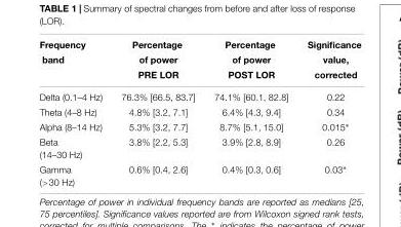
<table><thead><tr><td rowspan="3">Frequency band</td><td rowspan="3">Percentage of power PRE LOR</td><td rowspan="3">Percentage of power POST LOR</td><td rowspan="3">Significance value, corrected</td></tr><tr></tr><tr></tr></thead><tbody><tr><td>Delta (0.1–4 Hz)</td><td>76.3% [66.5, 83.7]</td><td>74.1% [60.1, 82.8]</td><td>0.22</td></tr><tr><td>Theta (4–8 Hz)</td><td>4.8% [3.2, 7.1]</td><td>6.4% [4.3, 9.4]</td><td>0.34</td></tr><tr><td>Alpha (8–14 Hz)</td><td>5.3% [3.2, 7.7]</td><td>8.7% [5.1, 15.0]</td><td>0.015∗</td></tr><tr><td>Beta (14–30 Hz)</td><td>3.8% [2.2, 5.3]</td><td>3.9% [2.8, 8.9]</td><td>0.26</td></tr><tr><td>Gamma (&gt;30 Hz)</td><td>0.6% [0.4, 2.6]</td><td>0.4% [0.3, 0.6]</td><td>0.03∗</td></tr></tbody></table>